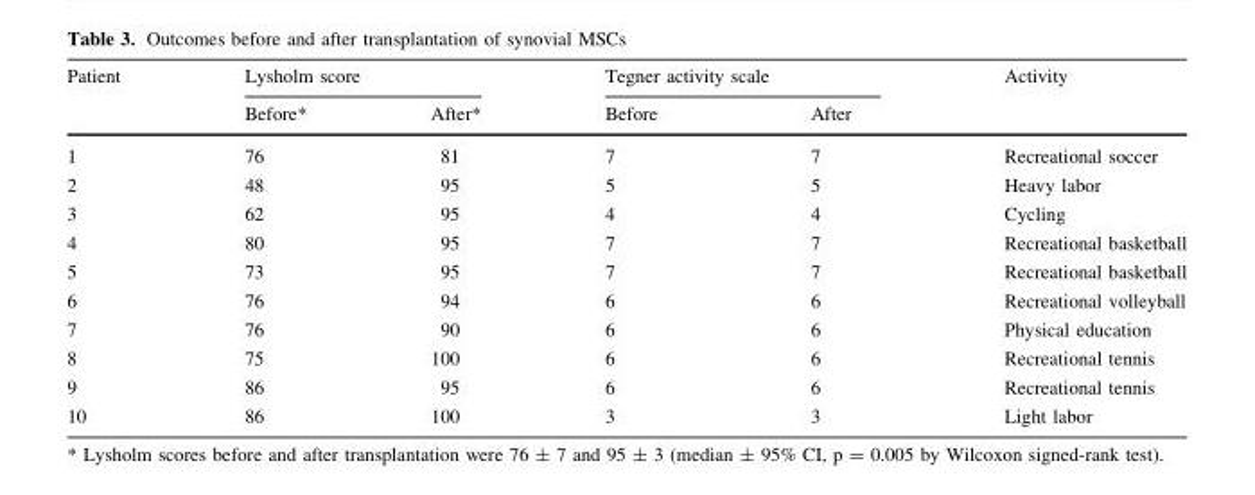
<table><thead><tr><td rowspan="2">Patient</td><td colspan="2">Lysholm score</td><td colspan="2">Tegner activity scale</td><td rowspan="2">Activity</td></tr><tr><td>Before*</td><td>After*</td><td>Before</td><td>After</td></tr></thead><tbody><tr><td>1</td><td>76</td><td>81</td><td>7</td><td>7</td><td>Recreational soccer</td></tr><tr><td>2</td><td>48</td><td>95</td><td>5</td><td>5</td><td>Heavy labor</td></tr><tr><td>3</td><td>62</td><td>95</td><td>4</td><td>4</td><td>Cycling</td></tr><tr><td>4</td><td>80</td><td>95</td><td>7</td><td>7</td><td>Recreational basketball</td></tr><tr><td>5</td><td>73</td><td>95</td><td>7</td><td>7</td><td>Recreational basketball</td></tr><tr><td>6</td><td>76</td><td>94</td><td>6</td><td>6</td><td>Recreational volleyball</td></tr><tr><td>7</td><td>76</td><td>90</td><td>6</td><td>6</td><td>Physical education</td></tr><tr><td>8</td><td>75</td><td>100</td><td>6</td><td>6</td><td>Recreational tennis</td></tr><tr><td>9</td><td>86</td><td>95</td><td>6</td><td>6</td><td>Recreational tennis</td></tr><tr><td>10</td><td>86</td><td>100</td><td>3</td><td>3</td><td>Light labor</td></tr></tbody></table>